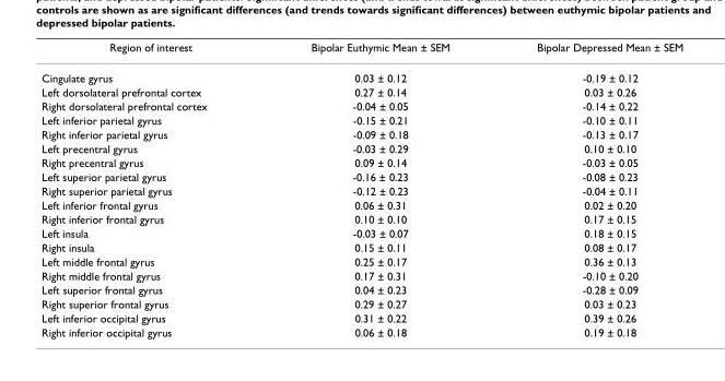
<table><thead><tr><td>Region of interest</td><td>Bipolar Euthymic Mean ± SEM</td><td>Bipolar Depressed Mean ± SEM</td></tr></thead><tbody><tr><td>Cingulate gyrus</td><td>0.03 ± 0.12</td><td>-0.19 ± 0.12</td></tr><tr><td>Left dorsolateral prefrontal cortex</td><td>0.27 ± 0.14</td><td>0.03 ± 0.26</td></tr><tr><td>Right dorsolateral prefrontal cortex</td><td>-0.04 ± 0.05</td><td>-0.14 ± 0.22</td></tr><tr><td>Left inferior parietal gyrus</td><td>-0.15 ± 0.21</td><td>-0.10 ± 0.11</td></tr><tr><td>Right inferior parietal gyrus</td><td>-0.09 ± 0.18</td><td>-0.13 ± 0.17</td></tr><tr><td>Left precentral gyrus</td><td>-0.03 ± 0.29</td><td>0.10 ± 0.10</td></tr><tr><td>Right precentral gyrus</td><td>0.09 ± 0.14</td><td>-0.03 ± 0.05</td></tr><tr><td>Left superior parietal gyrus</td><td>-0.16 ± 0.23</td><td>-0.08 ± 0.23</td></tr><tr><td>Right superior parietal gyrus</td><td>-0.12 ± 0.23</td><td>-0.04 ± 0.11</td></tr><tr><td>Left inferior frontal gyrus</td><td>0.06 ± 0.31</td><td>0.02 ± 0.20</td></tr><tr><td>Right inferior frontal gyrus</td><td>0.10 ± 0.10</td><td>0.17 ± 0.15</td></tr><tr><td>Left insula</td><td>-0.03 ± 0.07</td><td>0.18 ± 0.15</td></tr><tr><td>Right insula</td><td>0.15 ± 0.11</td><td>0.08 ± 0.17</td></tr><tr><td>Left middle frontal gyrus</td><td>0.25 ± 0.17</td><td>0.36 ± 0.13</td></tr><tr><td>Right middle frontal gyrus</td><td>0.17 ± 0.31</td><td>-0.10 ± 0.20</td></tr><tr><td>Left superior frontal gyrus</td><td>0.04 ± 0.23</td><td>-0.28 ± 0.09</td></tr><tr><td>Right superior frontal gyrus</td><td>0.29 ± 0.27</td><td>0.03 ± 0.23</td></tr><tr><td>Left inferior occipital gyrus</td><td>0.31 ± 0.22</td><td>0.39 ± 0.26</td></tr><tr><td>Right inferior occipital gyrus</td><td>0.06 ± 0.18</td><td>0.19 ± 0.18</td></tr></tbody></table>